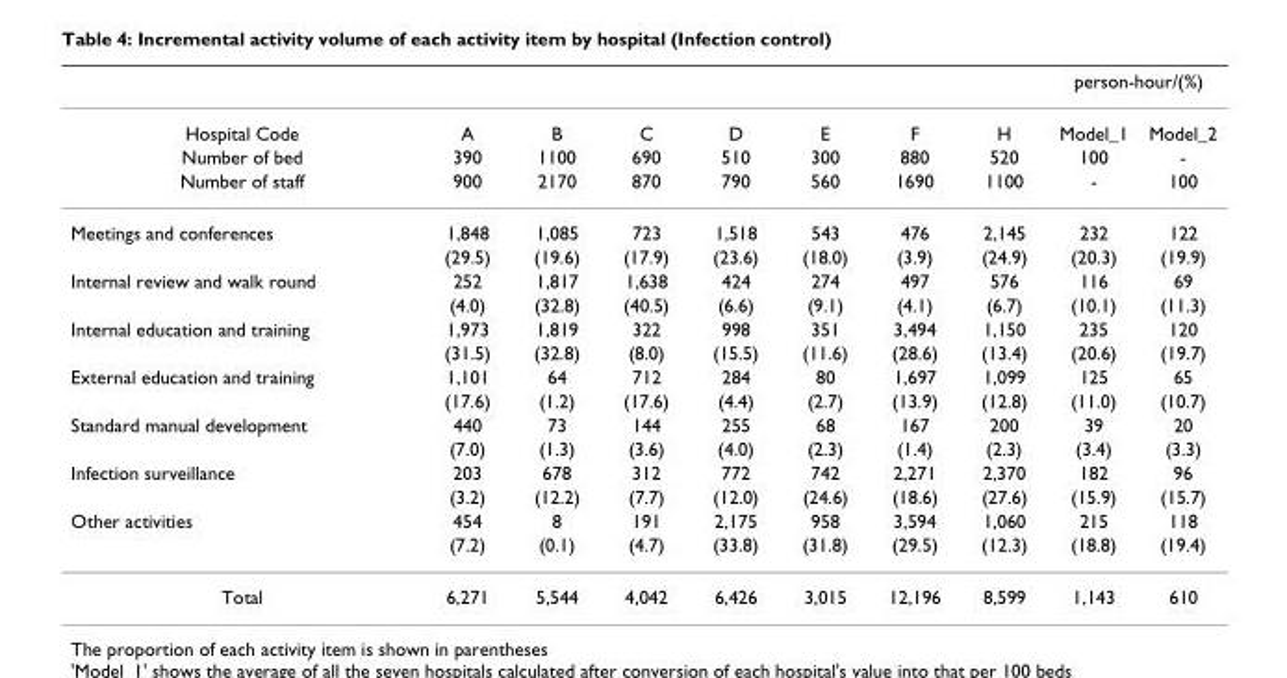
<table><thead><tr><td rowspan="2">Hospital Code</td><td rowspan="2">A</td><td rowspan="2">B</td><td rowspan="2">C</td><td rowspan="2">D</td><td rowspan="2">E</td><td rowspan="2">F</td><td rowspan="2">H</td><td colspan="2">person-hour/(%)</td></tr><tr><td>Model_1</td><td>Model_2</td></tr></thead><tbody><tr><td>Number of bed</td><td>390</td><td>1100</td><td>690</td><td>510</td><td>300</td><td>880</td><td>520</td><td>100</td><td>-</td></tr><tr><td>Number of staff</td><td>900</td><td>2170</td><td>870</td><td>790</td><td>560</td><td>1690</td><td>1100</td><td>-</td><td>100</td></tr><tr><td rowspan="2">Meetings and conferences</td><td>1,848</td><td>1,085</td><td>723</td><td>1,518</td><td>543</td><td>476</td><td>2,145</td><td>232</td><td>122</td></tr><tr><td>(29.5)</td><td>(19.6)</td><td>(17.9)</td><td>(23.6)</td><td>(18.0)</td><td>(3.9)</td><td>(24.9)</td><td>(20.3)</td><td>(19.9)</td></tr><tr><td rowspan="2">Internal review and walk round</td><td>252</td><td>1,817</td><td>1,638</td><td>424</td><td>274</td><td>497</td><td>576</td><td>116</td><td>69</td></tr><tr><td>(4.0)</td><td>(32.8)</td><td>(40.5)</td><td>(6.6)</td><td>(9.1)</td><td>(4.1)</td><td>(6.7)</td><td>(10.1)</td><td>(11.3)</td></tr><tr><td rowspan="2">Internal education and training</td><td>1,973</td><td>1,819</td><td>322</td><td>998</td><td>351</td><td>3,494</td><td>1,150</td><td>235</td><td>120</td></tr><tr><td>(31.5)</td><td>(32.8)</td><td>(8.0)</td><td>(15.5)</td><td>(11.6)</td><td>(28.6)</td><td>(13.4)</td><td>(20.6)</td><td>(19.7)</td></tr><tr><td rowspan="2">External education and training</td><td>1,101</td><td>64</td><td>712</td><td>284</td><td>80</td><td>1,697</td><td>1,099</td><td>125</td><td>65</td></tr><tr><td>(17.6)</td><td>(1.2)</td><td>(17.6)</td><td>(4.4)</td><td>(2.7)</td><td>(13.9)</td><td>(12.8)</td><td>(11.0)</td><td>(10.7)</td></tr><tr><td rowspan="2">Standard manual development</td><td>440</td><td>73</td><td>144</td><td>255</td><td>68</td><td>167</td><td>200</td><td>39</td><td>20</td></tr><tr><td>(7.0)</td><td>(1.3)</td><td>(3.6)</td><td>(4.0)</td><td>(2.3)</td><td>(1.4)</td><td>(2.3)</td><td>(3.4)</td><td>(3.3)</td></tr><tr><td rowspan="2">Infection surveillance</td><td>203</td><td>678</td><td>312</td><td>772</td><td>742</td><td>2,271</td><td>2,370</td><td>182</td><td>96</td></tr><tr><td>(3.2)</td><td>(12.2)</td><td>(7.7)</td><td>(12.0)</td><td>(24.6)</td><td>(18.6)</td><td>(27.6)</td><td>(15.9)</td><td>(15.7)</td></tr><tr><td rowspan="2">Other activities</td><td>454</td><td>8</td><td>191</td><td>2,175</td><td>958</td><td>3,594</td><td>1,060</td><td>215</td><td>118</td></tr><tr><td>(7.2)</td><td>(0.1)</td><td>(4.7)</td><td>(33.8)</td><td>(31.8)</td><td>(29.5)</td><td>(12.3)</td><td>(18.8)</td><td>(19.4)</td></tr><tr><td>Total</td><td>6,271</td><td>5,544</td><td>4,042</td><td>6,426</td><td>3,015</td><td>12,196</td><td>8,599</td><td>1,143</td><td>610</td></tr></tbody></table>